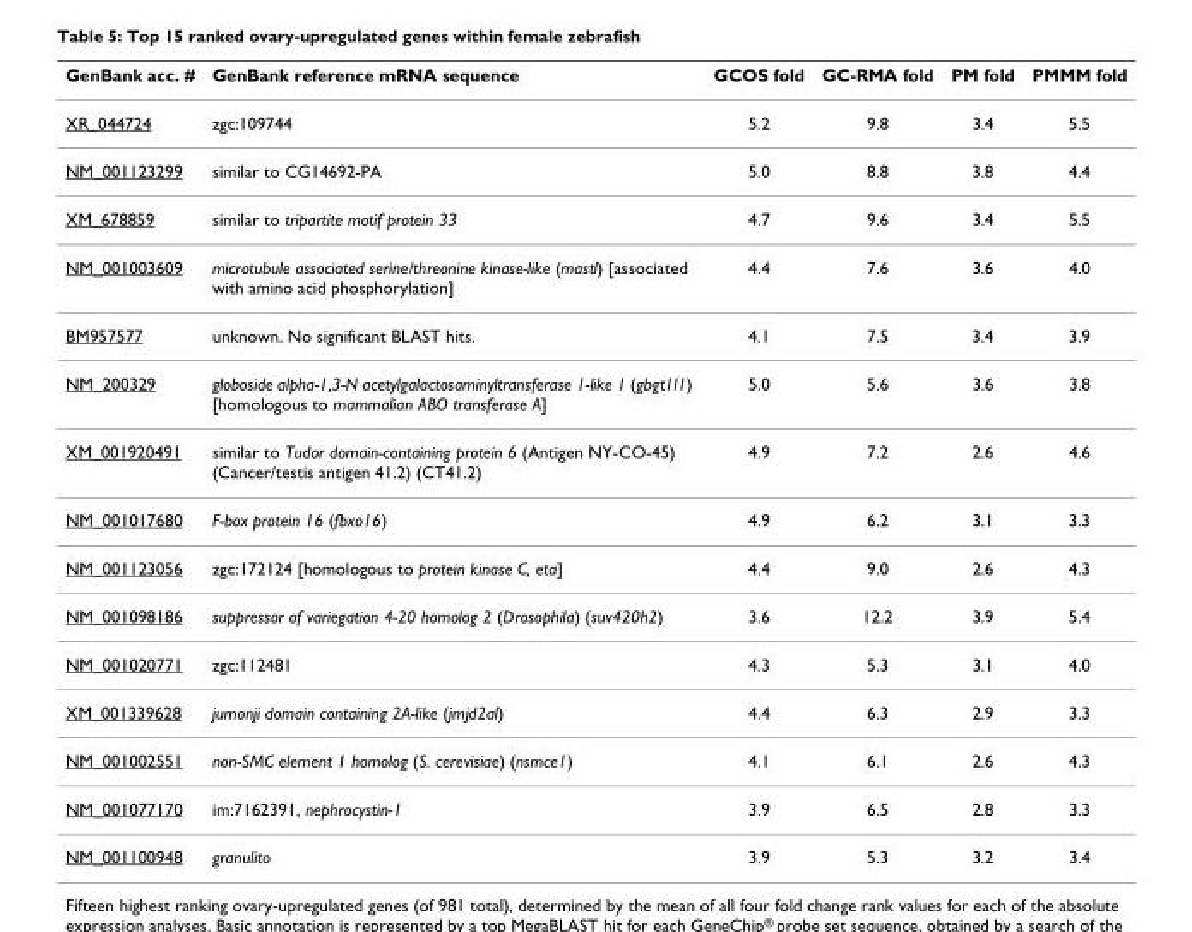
<table><thead><tr><td>GenBank acc. #</td><td>GenBank reference mRNA sequence</td><td>GCOS fold</td><td>GC-RMA fold</td><td>PM fold</td><td>PMMM fold</td></tr></thead><tbody><tr><td>XR_044724</td><td>zgc:109744</td><td>5.2</td><td>9.8</td><td>3.4</td><td>5.5</td></tr><tr><td>NM_001123299</td><td>similar to CG14692-PA</td><td>5.0</td><td>8.8</td><td>3.8</td><td>4.4</td></tr><tr><td>XM_678859</td><td>similar to tripartite motif protein 33</td><td>4.7</td><td>9.6</td><td>3.4</td><td>5.5</td></tr><tr><td>NM_001003609</td><td>microtubule associated serine/threonine kinase-like (mastl) [associated with amino acid phosphorylation]</td><td>4.4</td><td>7.6</td><td>3.6</td><td>4.0</td></tr><tr><td>BM957577</td><td>unknown. No significant BLAST hits.</td><td>4.1</td><td>7.5</td><td>3.4</td><td>3.9</td></tr><tr><td>NM_200329</td><td>globoside alpha-1,3-N acetylgalactosaminyltransferase 1-like 1 (gbgt1l1) [homologous to mammalian ABO transferase A]</td><td>5.0</td><td>5.6</td><td>3.6</td><td>3.8</td></tr><tr><td>XM_001920491</td><td>similar to Tudor domain-containing protein 6 (Antigen NY-CO-45) (Cancer/testis antigen 41.2) (CT41.2)</td><td>4.9</td><td>7.2</td><td>2.6</td><td>4.6</td></tr><tr><td>NM_001017680</td><td>F-box protein 16 (fbxo16)</td><td>4.9</td><td>6.2</td><td>3.1</td><td>3.3</td></tr><tr><td>NM_001123056</td><td>zgc:172124 [homologous to protein kinase C, eta]</td><td>4.4</td><td>9.0</td><td>2.6</td><td>4.3</td></tr><tr><td>NM_001098186</td><td>suppressor of variegation 4-20 homolog 2 (Drosophila) (suv420h2)</td><td>3.6</td><td>12.2</td><td>3.9</td><td>5.4</td></tr><tr><td>NM_001020771</td><td>zgc:112481</td><td>4.3</td><td>5.3</td><td>3.1</td><td>4.0</td></tr><tr><td>XM_001339628</td><td>jumonji domain containing 2A-like (jmjd2al)</td><td>4.4</td><td>6.3</td><td>2.9</td><td>3.3</td></tr><tr><td>NM_001002551</td><td>non-SMC element 1 homolog (S. cerevisiae) (nsmce1)</td><td>4.1</td><td>6.1</td><td>2.6</td><td>4.3</td></tr><tr><td>NM_001077170</td><td>im:7162391, nephrocystin-1</td><td>3.9</td><td>6.5</td><td>2.8</td><td>3.3</td></tr><tr><td>NM_001100948</td><td>granulito</td><td>3.9</td><td>5.3</td><td>3.2</td><td>3.4</td></tr></tbody></table>